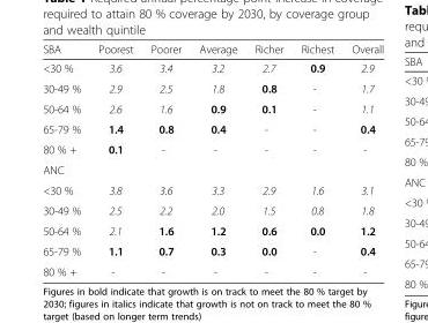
<table><thead><tr><td>SBA</td><td>Poorest</td><td>Poorer</td><td>Average</td><td>Richer</td><td>Richest</td><td>Overall</td></tr></thead><tbody><tr><td>&lt;30 %</td><td>3.6</td><td>3.4</td><td>3.2</td><td>2.7</td><td>0.9</td><td>2.9</td></tr><tr><td>30-49 %</td><td>2.9</td><td>2.5</td><td>1.8</td><td>0.8</td><td>-</td><td>1.7</td></tr><tr><td>50-64 %</td><td>2.6</td><td>1.6</td><td>0.9</td><td>0.1</td><td>-</td><td>1.1</td></tr><tr><td>65-79 %</td><td>1.4</td><td>0.8</td><td>0.4</td><td>-</td><td>-</td><td>0.4</td></tr><tr><td>80 % +</td><td>0.1</td><td>-</td><td>-</td><td>-</td><td>-</td><td>-</td></tr><tr><td colspan="7">ANC</td></tr><tr><td>&lt;30 %</td><td>3.8</td><td>3.6</td><td>3.3</td><td>2.9</td><td>1.6</td><td>3.1</td></tr><tr><td>30-49 %</td><td>2.5</td><td>2.2</td><td>2.0</td><td>1.5</td><td>0.8</td><td>1.8</td></tr><tr><td>50-64 %</td><td>2.1</td><td>1.6</td><td>1.2</td><td>0.6</td><td>0.0</td><td>1.2</td></tr><tr><td>65-79 %</td><td>1.1</td><td>0.7</td><td>0.3</td><td>0.0</td><td>-</td><td>0.4</td></tr><tr><td>80 % +</td><td>-</td><td>-</td><td>-</td><td>-</td><td>-</td><td>-</td></tr></tbody></table>